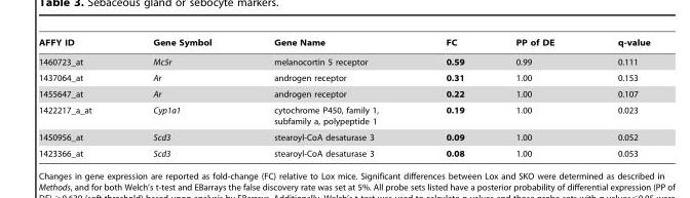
<table><thead><tr><td>AFFY ID</td><td>Gene Symbol</td><td>Gene Name</td><td>FC</td><td>PP of DE</td><td>q-value</td></tr></thead><tbody><tr><td>1460723_at</td><td>Mc5r</td><td>melanocortin 5 receptor</td><td>0.59</td><td>0.99</td><td>0.111</td></tr><tr><td>1437064_at</td><td>Ar</td><td>androgen receptor</td><td>0.31</td><td>1.00</td><td>0.153</td></tr><tr><td>1455647_at</td><td>Ar</td><td>androgen receptor</td><td>0.22</td><td>1.00</td><td>0.107</td></tr><tr><td>1422217_a_at</td><td>Cyp1a1</td><td>cytochrome P450, family 1, subfamily a, polypeptide 1</td><td>0.19</td><td>1.00</td><td>0.023</td></tr><tr><td>1450956_at</td><td>Scd3</td><td>stearoyl-CoA desaturase 3</td><td>0.09</td><td>1.00</td><td>0.052</td></tr><tr><td>1423366_at</td><td>Scd3</td><td>stearoyl-CoA desaturase 3</td><td>0.08</td><td>1.00</td><td>0.053</td></tr></tbody></table>